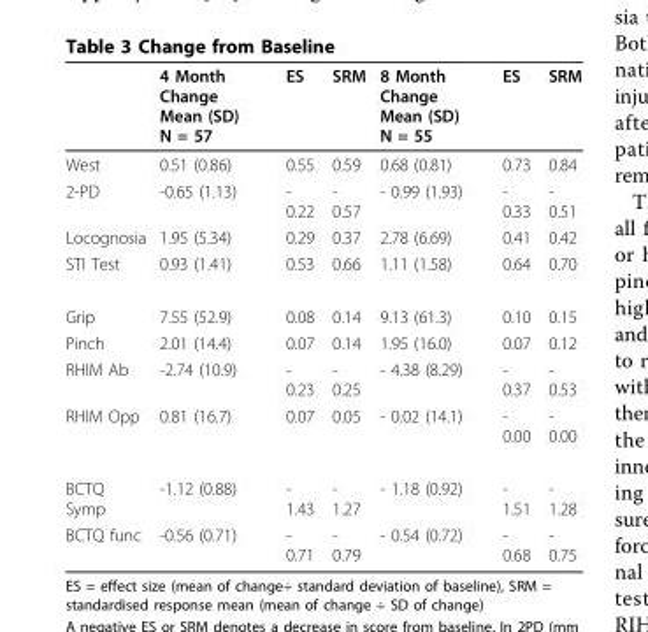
<table><thead><tr><td></td><td>4 Month Change Mean (SD) N = 57</td><td>ES</td><td>SRM</td><td>8 Month Change Mean (SD) N = 55</td><td>ES</td><td>SRM</td></tr></thead><tbody><tr><td>West</td><td>0.51 (0.86)</td><td>0.55</td><td>0.59</td><td>0.68 (0.81)</td><td>0.73</td><td>0.84</td></tr><tr><td>2-PD</td><td>-0.65 (1.13)</td><td>- 0.22</td><td>- 0.57</td><td>- 0.99 (1.93)</td><td>- 0.33</td><td>- 0.51</td></tr><tr><td>Locognosia</td><td>1.95 (5.34)</td><td>0.29</td><td>0.37</td><td>2.78 (6.69)</td><td>0.41</td><td>0.42</td></tr><tr><td>STI Test</td><td>0.93 (1.41)</td><td>0.53</td><td>0.66</td><td>1.11 (1.58)</td><td>0.64</td><td>0.70</td></tr><tr><td>Grip</td><td>7.55 (52.9)</td><td>0.08</td><td>0.14</td><td>9.13 (61.3)</td><td>0.10</td><td>0.15</td></tr><tr><td>Pinch</td><td>2.01 (14.4)</td><td>0.07</td><td>0.14</td><td>1.95 (16.0)</td><td>0.07</td><td>0.12</td></tr><tr><td>RHIM Ab</td><td>-2.74 (10.9)</td><td>- 0.23</td><td>- 0.25</td><td>- 4.38 (8.29)</td><td>- 0.37</td><td>- 0.53</td></tr><tr><td>RHIM Opp</td><td>0.81 (16.7)</td><td>0.07</td><td>0.05</td><td>- 0.02 (14.1)</td><td>- 0.00</td><td>- 0.00</td></tr><tr><td>BCTQ Symp</td><td>-1.12 (0.88)</td><td>- 1.43</td><td>- 1.27</td><td>- 1.18 (0.92)</td><td>- 1.51</td><td>- 1.28</td></tr><tr><td>BCTQ func</td><td>-0.56 (0.71)</td><td>- 0.71</td><td>- 0.79</td><td>- 0.54 (0.72)</td><td>- 0.68</td><td>- 0.75</td></tr></tbody></table>